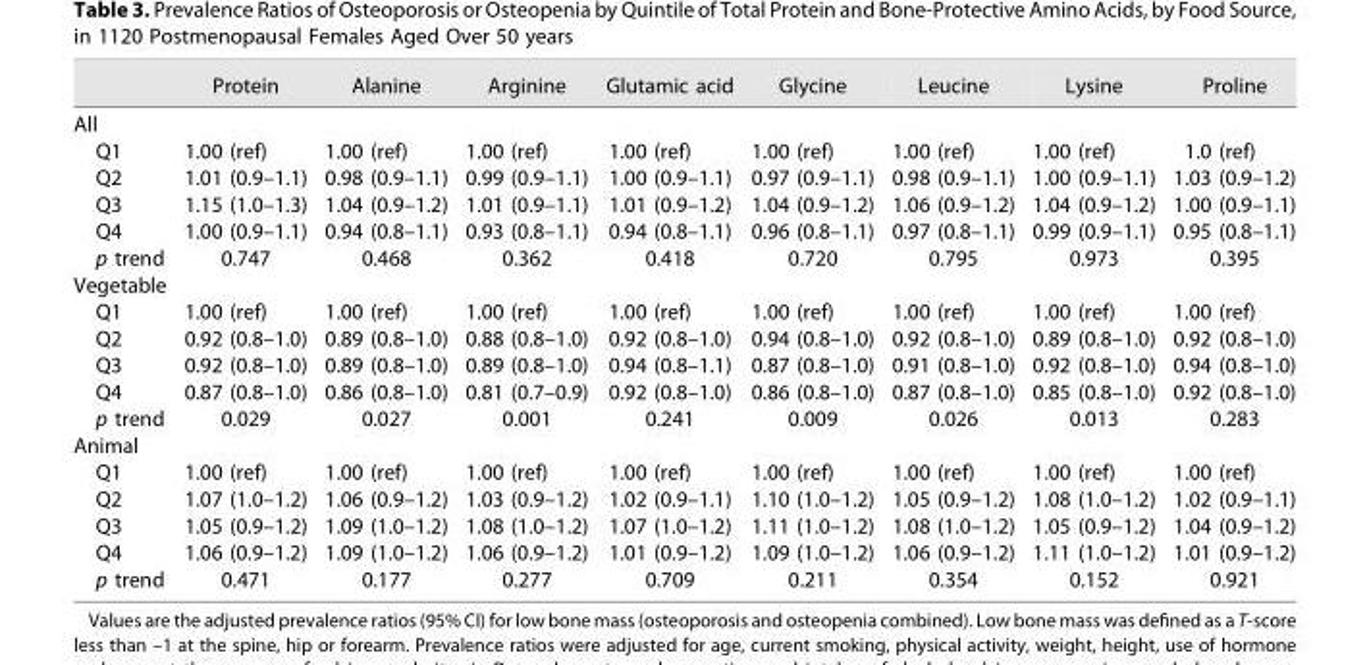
<table><thead><tr><td></td><td>Protein</td><td>Alanine</td><td>Arginine</td><td>Glutamic acid</td><td>Glycine</td><td>Leucine</td><td>Lysine</td><td>Proline</td></tr></thead><tbody><tr><td colspan="9">All</td></tr><tr><td>Q1</td><td>1.00 (ref)</td><td>1.00 (ref)</td><td>1.00 (ref)</td><td>1.00 (ref)</td><td>1.00 (ref)</td><td>1.00 (ref)</td><td>1.00 (ref)</td><td>1.0 (ref)</td></tr><tr><td>Q2</td><td>1.01 (0.9–1.1)</td><td>0.98 (0.9–1.1)</td><td>0.99 (0.9–1.1)</td><td>1.00 (0.9–1.1)</td><td>0.97 (0.9–1.1)</td><td>0.98 (0.9–1.1)</td><td>1.00 (0.9–1.1)</td><td>1.03 (0.9–1.2)</td></tr><tr><td>Q3</td><td>1.15 (1.0–1.3)</td><td>1.04 (0.9–1.2)</td><td>1.01 (0.9–1.1)</td><td>1.01 (0.9–1.2)</td><td>1.04 (0.9–1.2)</td><td>1.06 (0.9–1.2)</td><td>1.04 (0.9–1.2)</td><td>1.00 (0.9–1.1)</td></tr><tr><td>Q4</td><td>1.00 (0.9–1.1)</td><td>0.94 (0.8–1.1)</td><td>0.93 (0.8–1.1)</td><td>0.94 (0.8–1.1)</td><td>0.96 (0.8–1.1)</td><td>0.97 (0.8–1.1)</td><td>0.99 (0.9–1.1)</td><td>0.95 (0.8–1.1)</td></tr><tr><td>p trend</td><td>0.747</td><td>0.468</td><td>0.362</td><td>0.418</td><td>0.720</td><td>0.795</td><td>0.973</td><td>0.395</td></tr><tr><td colspan="9">Vegetable</td></tr><tr><td>Q1</td><td>1.00 (ref)</td><td>1.00 (ref)</td><td>1.00 (ref)</td><td>1.00 (ref)</td><td>1.00 (ref)</td><td>1.00 (ref)</td><td>1.00 (ref)</td><td>1.00 (ref)</td></tr><tr><td>Q2</td><td>0.92 (0.8–1.0)</td><td>0.89 (0.8–1.0)</td><td>0.88 (0.8–1.0)</td><td>0.92 (0.8–1.0)</td><td>0.94 (0.8–1.0)</td><td>0.92 (0.8–1.0)</td><td>0.89 (0.8–1.0)</td><td>0.92 (0.8–1.0)</td></tr><tr><td>Q3</td><td>0.92 (0.8–1.0)</td><td>0.89 (0.8–1.0)</td><td>0.89 (0.8–1.0)</td><td>0.94 (0.8–1.1)</td><td>0.87 (0.8–1.0)</td><td>0.91 (0.8–1.0)</td><td>0.92 (0.8–1.0)</td><td>0.94 (0.8–1.0)</td></tr><tr><td>Q4</td><td>0.87 (0.8–1.0)</td><td>0.86 (0.8–1.0)</td><td>0.81 (0.7–0.9)</td><td>0.92 (0.8–1.0)</td><td>0.86 (0.8–1.0)</td><td>0.87 (0.8–1.0)</td><td>0.85 (0.8–1.0)</td><td>0.92 (0.8–1.0)</td></tr><tr><td>p trend</td><td>0.029</td><td>0.027</td><td>0.001</td><td>0.241</td><td>0.009</td><td>0.026</td><td>0.013</td><td>0.283</td></tr><tr><td colspan="9">Animal</td></tr><tr><td>Q1</td><td>1.00 (ref)</td><td>1.00 (ref)</td><td>1.00 (ref)</td><td>1.00 (ref)</td><td>1.00 (ref)</td><td>1.00 (ref)</td><td>1.00 (ref)</td><td>1.00 (ref)</td></tr><tr><td>Q2</td><td>1.07 (1.0–1.2)</td><td>1.06 (0.9–1.2)</td><td>1.03 (0.9–1.2)</td><td>1.02 (0.9–1.1)</td><td>1.10 (1.0–1.2)</td><td>1.05 (0.9–1.2)</td><td>1.08 (1.0–1.2)</td><td>1.02 (0.9–1.1)</td></tr><tr><td>Q3</td><td>1.05 (0.9–1.2)</td><td>1.09 (1.0–1.2)</td><td>1.08 (1.0–1.2)</td><td>1.07 (1.0–1.2)</td><td>1.11 (1.0–1.2)</td><td>1.08 (1.0–1.2)</td><td>1.05 (0.9–1.2)</td><td>1.04 (0.9–1.2)</td></tr><tr><td>Q4</td><td>1.06 (0.9–1.2)</td><td>1.09 (1.0–1.2)</td><td>1.06 (0.9–1.2)</td><td>1.01 (0.9–1.2)</td><td>1.09 (1.0–1.2)</td><td>1.06 (0.9–1.2)</td><td>1.11 (1.0–1.2)</td><td>1.01 (0.9–1.2)</td></tr><tr><td>p trend</td><td>0.471</td><td>0.177</td><td>0.277</td><td>0.709</td><td>0.211</td><td>0.354</td><td>0.152</td><td>0.921</td></tr></tbody></table>